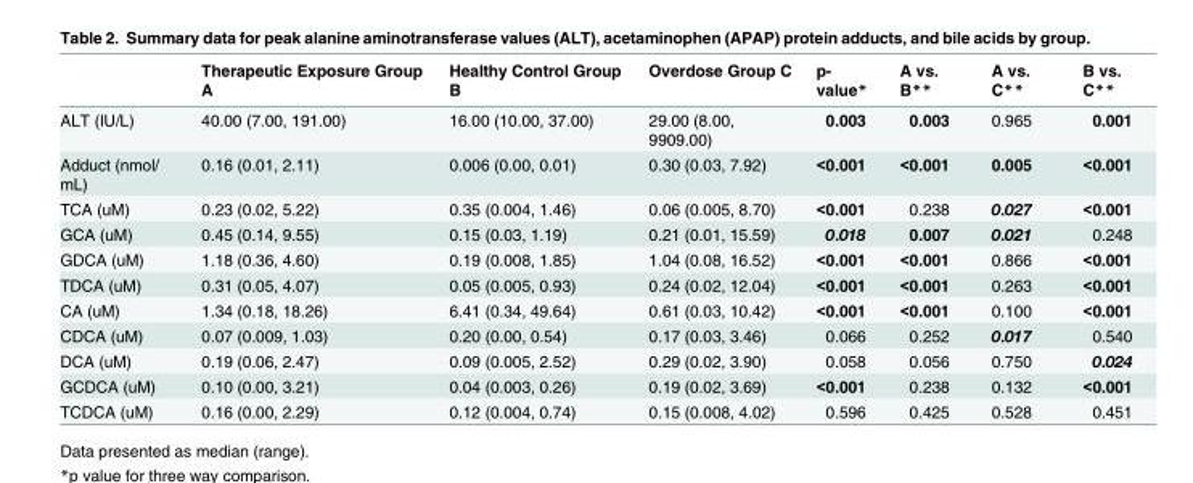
<table><thead><tr><td></td><td>Therapeutic Exposure Group A</td><td>Healthy Control Group B</td><td>Overdose Group C</td><td>p- value*</td><td>A vs. B**</td><td>A vs. C**</td><td>B vs. C**</td></tr></thead><tbody><tr><td>ALT (IU/L)</td><td>40.00 (7.00, 191.00)</td><td>16.00 (10.00, 37.00)</td><td>29.00 (8.00, 9909.00)</td><td>0.003</td><td>0.003</td><td>0.965</td><td>0.001</td></tr><tr><td>Adduct (nmol/ mL)</td><td>0.16 (0.01, 2.11)</td><td>0.006 (0.00, 0.01)</td><td>0.30 (0.03, 7.92)</td><td>&lt;0.001</td><td>&lt;0.001</td><td>0.005</td><td>&lt;0.001</td></tr><tr><td>TCA (uM)</td><td>0.23 (0.02, 5.22)</td><td>0.35 (0.004, 1.46)</td><td>0.06 (0.005, 8.70)</td><td>&lt;0.001</td><td>0.238</td><td>0.027</td><td>&lt;0.001</td></tr><tr><td>GCA (uM)</td><td>0.45 (0.14, 9.55)</td><td>0.15 (0.03, 1.19)</td><td>0.21 (0.01, 15.59)</td><td>0.018</td><td>0.007</td><td>0.021</td><td>0.248</td></tr><tr><td>GDCA (uM)</td><td>1.18 (0.36, 4.60)</td><td>0.19 (0.008, 1.85)</td><td>1.04 (0.08, 16.52)</td><td>&lt;0.001</td><td>&lt;0.001</td><td>0.866</td><td>&lt;0.001</td></tr><tr><td>TDCA (uM)</td><td>0.31 (0.05, 4.07)</td><td>0.05 (0.005, 0.93)</td><td>0.24 (0.02, 12.04)</td><td>&lt;0.001</td><td>&lt;0.001</td><td>0.263</td><td>&lt;0.001</td></tr><tr><td>CA (uM)</td><td>1.34 (0.18, 18.26)</td><td>6.41 (0.34, 49.64)</td><td>0.61 (0.03, 10.42)</td><td>&lt;0.001</td><td>&lt;0.001</td><td>0.100</td><td>&lt;0.001</td></tr><tr><td>CDCA (uM)</td><td>0.07 (0.009, 1.03)</td><td>0.20 (0.00, 0.54)</td><td>0.17 (0.03, 3.46)</td><td>0.066</td><td>0.252</td><td>0.017</td><td>0.540</td></tr><tr><td>DCA (uM)</td><td>0.19 (0.06, 2.47)</td><td>0.09 (0.005, 2.52)</td><td>0.29 (0.02, 3.90)</td><td>0.058</td><td>0.056</td><td>0.750</td><td>0.024</td></tr><tr><td>GCDCA (uM)</td><td>0.10 (0.00, 3.21)</td><td>0.04 (0.003, 0.26)</td><td>0.19 (0.02, 3.69)</td><td>&lt;0.001</td><td>0.238</td><td>0.132</td><td>&lt;0.001</td></tr><tr><td>TCDCA (uM)</td><td>0.16 (0.00, 2.29)</td><td>0.12 (0.004, 0.74)</td><td>0.15 (0.008, 4.02)</td><td>0.596</td><td>0.425</td><td>0.528</td><td>0.451</td></tr></tbody></table>